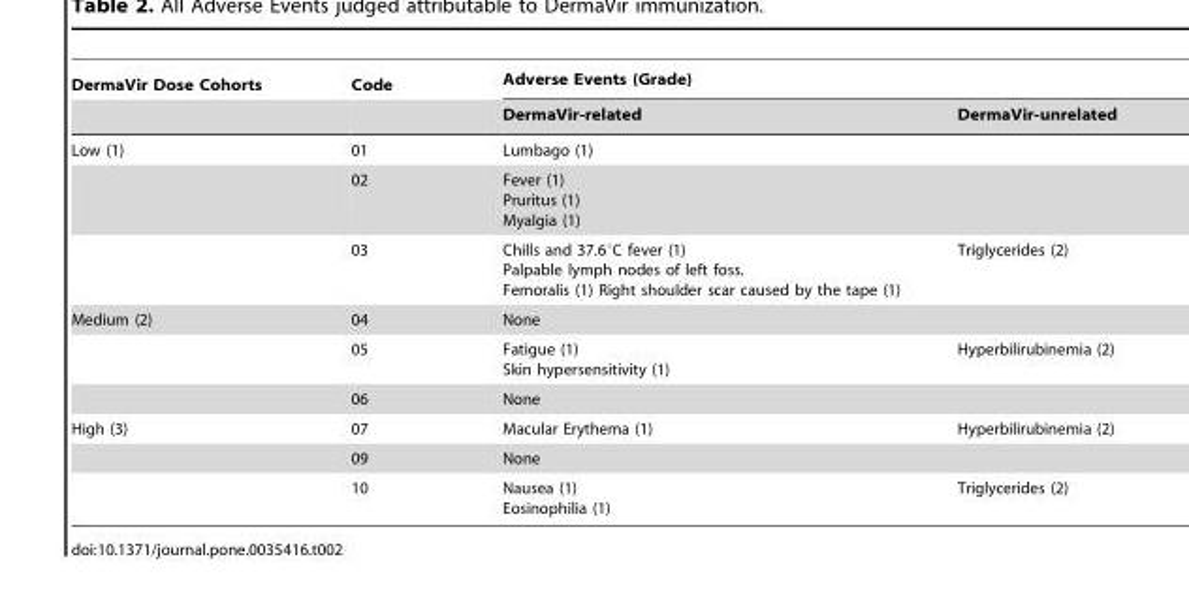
<table><thead><tr><td rowspan="2">DermaVir Dose Cohorts</td><td rowspan="2">Code</td><td colspan="2">Adverse Events (Grade)</td></tr><tr><td>DermaVir-related</td><td>DermaVir-unrelated</td></tr></thead><tbody><tr><td rowspan="3">Low (1)</td><td>01</td><td>Lumbago (1)</td><td></td></tr><tr><td>02</td><td>Fever (1) Pruritus (1) Myalgia (1)</td><td></td></tr><tr><td>03</td><td>Chills and 37.6°C fever (1) Palpable lymph nodes of left foss. Femoralis (1) Right shoulder scar caused by the tape (1)</td><td>Triglycerides (2)</td></tr><tr><td rowspan="3">Medium (2)</td><td>04</td><td>None</td><td></td></tr><tr><td>05</td><td>Fatigue (1) Skin hypersensitivity (1)</td><td>Hyperbilirubinemia (2)</td></tr><tr><td>06</td><td>None</td><td></td></tr><tr><td rowspan="3">High (3)</td><td>07</td><td>Macular Erythema (1)</td><td>Hyperbilirubinemia (2)</td></tr><tr><td>09</td><td>None</td><td></td></tr><tr><td>10</td><td>Nausea (1) Eosinophilia (1)</td><td>Triglycerides (2)</td></tr></tbody></table>